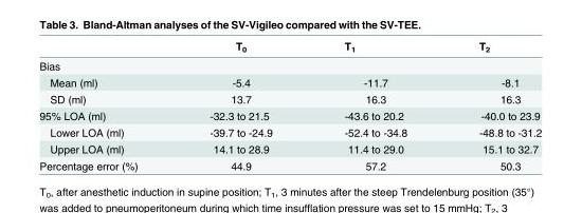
<table><thead><tr><td></td><td>T<sub>0</sub></td><td>T<sub>1</sub></td><td>T<sub>2</sub></td></tr></thead><tbody><tr><td colspan="4">Bias</td></tr><tr><td>Mean (ml)</td><td>-5.4</td><td>-11.7</td><td>-8.1</td></tr><tr><td>SD (ml)</td><td>13.7</td><td>16.3</td><td>16.3</td></tr><tr><td>95% LOA (ml)</td><td>-32.3 to 21.5</td><td>-43.6 to 20.2</td><td>-40.0 to 23.9</td></tr><tr><td>Lower LOA (ml)</td><td>-39.7 to -24.9</td><td>-52.4 to -34.8</td><td>-48.8 to -31.2</td></tr><tr><td>Upper LOA (ml)</td><td>14.1 to 28.9</td><td>11.4 to 29.0</td><td>15.1 to 32.7</td></tr><tr><td>Percentage error (%)</td><td>44.9</td><td>57.2</td><td>50.3</td></tr></tbody></table>